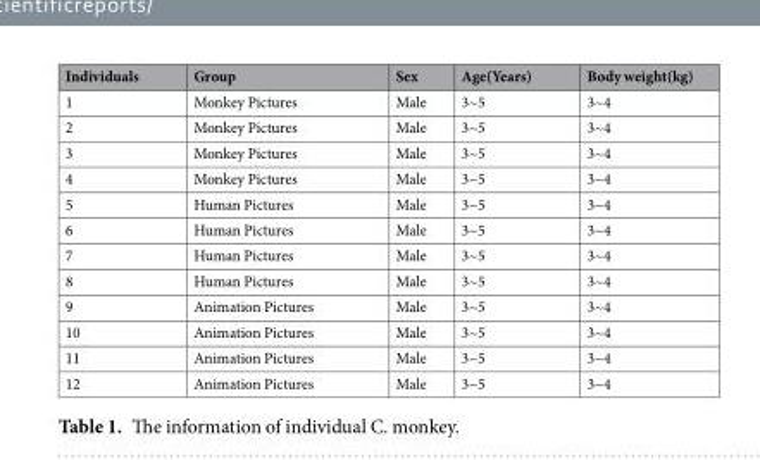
<table><thead><tr><td>Individuals</td><td>Group</td><td>Sex</td><td>Age(Years)</td><td>Body weight(kg)</td></tr></thead><tbody><tr><td>1</td><td>Monkey Pictures</td><td>Male</td><td>3~5</td><td>3~4</td></tr><tr><td>2</td><td>Monkey Pictures</td><td>Male</td><td>3~5</td><td>3~4</td></tr><tr><td>3</td><td>Monkey Pictures</td><td>Male</td><td>3~5</td><td>3~4</td></tr><tr><td>4</td><td>Monkey Pictures</td><td>Male</td><td>3~5</td><td>3~4</td></tr><tr><td>5</td><td>Human Pictures</td><td>Male</td><td>3~5</td><td>3~4</td></tr><tr><td>6</td><td>Human Pictures</td><td>Male</td><td>3~5</td><td>3~4</td></tr><tr><td>7</td><td>Human Pictures</td><td>Male</td><td>3~5</td><td>3~4</td></tr><tr><td>8</td><td>Human Pictures</td><td>Male</td><td>3~5</td><td>3~4</td></tr><tr><td>9</td><td>Animation Pictures</td><td>Male</td><td>3~5</td><td>3~4</td></tr><tr><td>10</td><td>Animation Pictures</td><td>Male</td><td>3~5</td><td>3~4</td></tr><tr><td>11</td><td>Animation Pictures</td><td>Male</td><td>3~5</td><td>3~4</td></tr><tr><td>12</td><td>Animation Pictures</td><td>Male</td><td>3~5</td><td>3~4</td></tr></tbody></table>